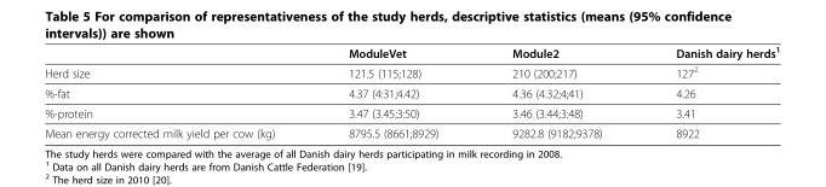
<table><thead><tr><td></td><td>ModuleVet</td><td>Module2</td><td>Danish dairy herds<sup>1</sup></td></tr></thead><tbody><tr><td>Herd size</td><td>121.5 (115;128)</td><td>210 (200;217)</td><td>127<sup>2</sup></td></tr><tr><td>%-fat</td><td>4.37 (4:31;4.42)</td><td>4.36 (4.32;4;41)</td><td>4.26</td></tr><tr><td>%-protein</td><td>3.47 (3.45;3:50)</td><td>3.46 (3.44;3:48)</td><td>3.41</td></tr><tr><td>Mean energy corrected milk yield per cow (kg)</td><td>8795.5 (8661;8929)</td><td>9282.8 (9182;9378)</td><td>8922</td></tr></tbody></table>